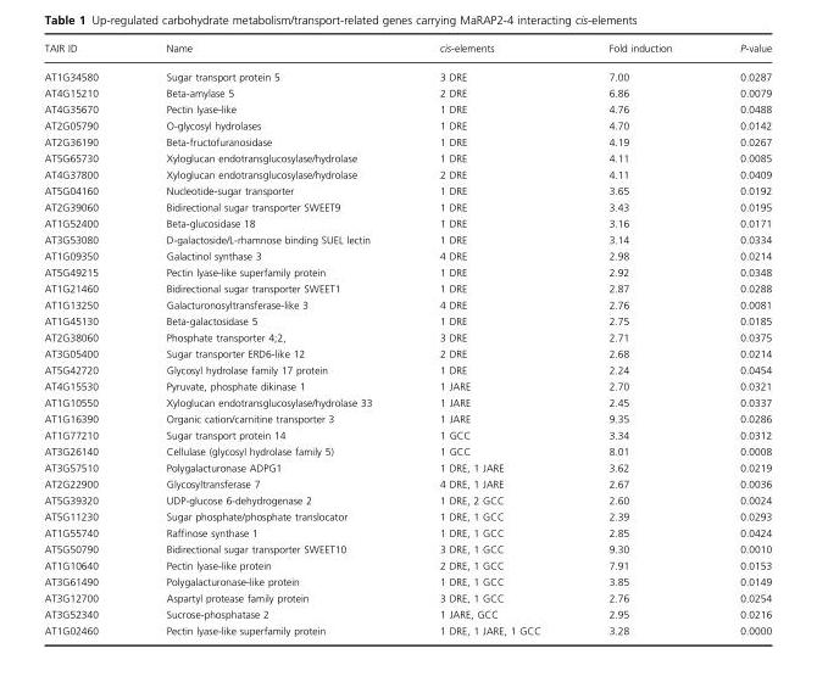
<table><thead><tr><td>TAIR ID</td><td>Name</td><td>cis-elements</td><td>Fold induction</td><td>P-value</td></tr></thead><tbody><tr><td>AT1G34580</td><td>Sugar transport protein 5</td><td>3 DRE</td><td>7.00</td><td>0.0287</td></tr><tr><td>AT4G15210</td><td>Beta-amylase 5</td><td>2 DRE</td><td>6.86</td><td>0.0079</td></tr><tr><td>AT4G35670</td><td>Pectin lyase-like</td><td>1 DRE</td><td>4.76</td><td>0.0488</td></tr><tr><td>AT2G05790</td><td>O-glycosyl hydrolases</td><td>1 DRE</td><td>4.70</td><td>0.0142</td></tr><tr><td>AT2G36190</td><td>Beta-fructofuranosidase</td><td>1 DRE</td><td>4.19</td><td>0.0267</td></tr><tr><td>AT5G65730</td><td>Xyloglucan endotransglucosylase/hydrolase</td><td>1 DRE</td><td>4.11</td><td>0.0085</td></tr><tr><td>AT4G37800</td><td>Xyloglucan endotransglucosylase/hydrolase</td><td>2 DRE</td><td>4.11</td><td>0.0409</td></tr><tr><td>AT5G04160</td><td>Nucleotide-sugar transporter</td><td>1 DRE</td><td>3.65</td><td>0.0192</td></tr><tr><td>AT2G39060</td><td>Bidirectional sugar transporter SWEET9</td><td>1 DRE</td><td>3.43</td><td>0.0195</td></tr><tr><td>AT1G52400</td><td>Beta-glucosidase 18</td><td>1 DRE</td><td>3.16</td><td>0.0171</td></tr><tr><td>AT3G53080</td><td>D-galactoside/L-rhamnose binding SUEL lectin</td><td>1 DRE</td><td>3.14</td><td>0.0334</td></tr><tr><td>AT1G09350</td><td>Galactinol synthase 3</td><td>4 DRE</td><td>2.98</td><td>0.0214</td></tr><tr><td>AT5G49215</td><td>Pectin lyase-like superfamily protein</td><td>1 DRE</td><td>2.92</td><td>0.0348</td></tr><tr><td>AT1G21460</td><td>Bidirectional sugar transporter SWEET1</td><td>1 DRE</td><td>2.87</td><td>0.0288</td></tr><tr><td>AT1G13250</td><td>Galacturonosyltransferase-like 3</td><td>4 DRE</td><td>2.76</td><td>0.0081</td></tr><tr><td>AT1G45130</td><td>Beta-galactosidase 5</td><td>1 DRE</td><td>2.75</td><td>0.0185</td></tr><tr><td>AT2G38060</td><td>Phosphate transporter 4;2,</td><td>3 DRE</td><td>2.71</td><td>0.0375</td></tr><tr><td>AT3G05400</td><td>Sugar transporter ERD6-like 12</td><td>2 DRE</td><td>2.68</td><td>0.0214</td></tr><tr><td>AT5G42720</td><td>Glycosyl hydrolase family 17 protein</td><td>1 DRE</td><td>2.24</td><td>0.0454</td></tr><tr><td>AT4G15530</td><td>Pyruvate, phosphate dikinase 1</td><td>1 JARE</td><td>2.70</td><td>0.0321</td></tr><tr><td>AT1G10550</td><td>Xyloglucan endotransglucosylase/hydrolase 33</td><td>1 JARE</td><td>2.45</td><td>0.0337</td></tr><tr><td>AT1G16390</td><td>Organic cation/carnitine transporter 3</td><td>1 JARE</td><td>9.35</td><td>0.0286</td></tr><tr><td>AT1G77210</td><td>Sugar transport protein 14</td><td>1 GCC</td><td>3.34</td><td>0.0312</td></tr><tr><td>AT3G26140</td><td>Cellulase (glycosyl hydrolase family 5)</td><td>1 GCC</td><td>8.01</td><td>0.0008</td></tr><tr><td>AT3G57510</td><td>Polygalacturonase ADPG1</td><td>1 DRE, 1 JARE</td><td>3.62</td><td>0.0219</td></tr><tr><td>AT2G22900</td><td>Glycosyltransferase 7</td><td>4 DRE, 1 JARE</td><td>2.67</td><td>0.0036</td></tr><tr><td>AT5G39320</td><td>UDP-glucose 6-dehydrogenase 2</td><td>1 DRE, 2 GCC</td><td>2.60</td><td>0.0024</td></tr><tr><td>AT5G11230</td><td>Sugar phosphate/phosphate translocator</td><td>1 DRE, 1 GCC</td><td>2.39</td><td>0.0293</td></tr><tr><td>AT1G55740</td><td>Raffinose synthase 1</td><td>1 DRE, 1 GCC</td><td>2.85</td><td>0.0424</td></tr><tr><td>AT5G50790</td><td>Bidirectional sugar transporter SWEET10</td><td>3 DRE, 1 GCC</td><td>9.30</td><td>0.0010</td></tr><tr><td>AT1G10640</td><td>Pectin lyase-like protein</td><td>2 DRE, 1 GCC</td><td>7.91</td><td>0.0153</td></tr><tr><td>AT3G61490</td><td>Polygalacturonase-like protein</td><td>1 DRE, 1 GCC</td><td>3.85</td><td>0.0149</td></tr><tr><td>AT3G12700</td><td>Aspartyl protease family protein</td><td>3 DRE, 1 GCC</td><td>2.76</td><td>0.0254</td></tr><tr><td>AT3G52340</td><td>Sucrose-phosphatase 2</td><td>1 JARE, GCC</td><td>2.95</td><td>0.0216</td></tr><tr><td>AT1G02460</td><td>Pectin lyase-like superfamily protein</td><td>1 DRE, 1 JARE, 1 GCC</td><td>3.28</td><td>0.0000</td></tr></tbody></table>